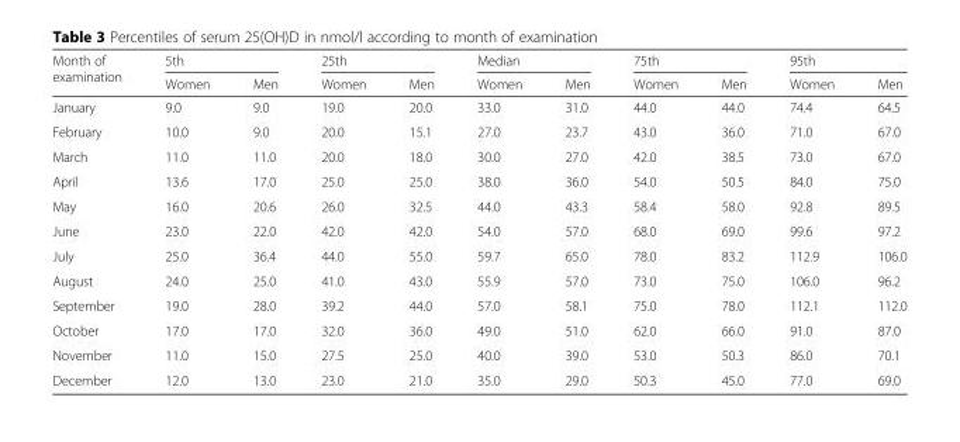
<table><thead><tr><td rowspan="2">Month of examination</td><td colspan="2">5th</td><td colspan="2">25th</td><td colspan="2">Median</td><td colspan="2">75th</td><td colspan="2">95th</td></tr><tr><td>Women</td><td>Men</td><td>Women</td><td>Men</td><td>Women</td><td>Men</td><td>Women</td><td>Men</td><td>Women</td><td>Men</td></tr></thead><tbody><tr><td>January</td><td>9.0</td><td>9.0</td><td>19.0</td><td>20.0</td><td>33.0</td><td>31.0</td><td>44.0</td><td>44.0</td><td>74.4</td><td>64.5</td></tr><tr><td>February</td><td>10.0</td><td>9.0</td><td>20.0</td><td>15.1</td><td>27.0</td><td>23.7</td><td>43.0</td><td>36.0</td><td>71.0</td><td>67.0</td></tr><tr><td>March</td><td>11.0</td><td>11.0</td><td>20.0</td><td>18.0</td><td>30.0</td><td>27.0</td><td>42.0</td><td>38.5</td><td>73.0</td><td>67.0</td></tr><tr><td>April</td><td>13.6</td><td>17.0</td><td>25.0</td><td>25.0</td><td>38.0</td><td>36.0</td><td>54.0</td><td>50.5</td><td>84.0</td><td>75.0</td></tr><tr><td>May</td><td>16.0</td><td>20.6</td><td>26.0</td><td>32.5</td><td>44.0</td><td>43.3</td><td>58.4</td><td>58.0</td><td>92.8</td><td>89.5</td></tr><tr><td>June</td><td>23.0</td><td>22.0</td><td>42.0</td><td>42.0</td><td>54.0</td><td>57.0</td><td>68.0</td><td>69.0</td><td>99.6</td><td>97.2</td></tr><tr><td>July</td><td>25.0</td><td>36.4</td><td>44.0</td><td>55.0</td><td>59.7</td><td>65.0</td><td>78.0</td><td>83.2</td><td>112.9</td><td>106.0</td></tr><tr><td>August</td><td>24.0</td><td>25.0</td><td>41.0</td><td>43.0</td><td>55.9</td><td>57.0</td><td>73.0</td><td>75.0</td><td>106.0</td><td>96.2</td></tr><tr><td>September</td><td>19.0</td><td>28.0</td><td>39.2</td><td>44.0</td><td>57.0</td><td>58.1</td><td>75.0</td><td>78.0</td><td>112.1</td><td>112.0</td></tr><tr><td>October</td><td>17.0</td><td>17.0</td><td>32.0</td><td>36.0</td><td>49.0</td><td>51.0</td><td>62.0</td><td>66.0</td><td>91.0</td><td>87.0</td></tr><tr><td>November</td><td>11.0</td><td>15.0</td><td>27.5</td><td>25.0</td><td>40.0</td><td>39.0</td><td>53.0</td><td>50.3</td><td>86.0</td><td>70.1</td></tr><tr><td>December</td><td>12.0</td><td>13.0</td><td>23.0</td><td>21.0</td><td>35.0</td><td>29.0</td><td>50.3</td><td>45.0</td><td>77.0</td><td>69.0</td></tr></tbody></table>